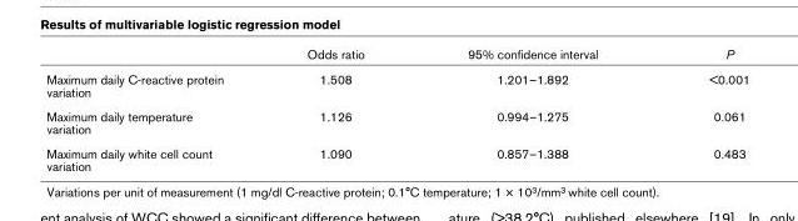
<table><thead><tr><td></td><td>Odds ratio</td><td>95% confidence interval</td><td>P</td></tr></thead><tbody><tr><td>Maximum daily C-reactive protein variation</td><td>1.508</td><td>1.201–1.892</td><td>&lt;0.001</td></tr><tr><td>Maximum daily temperature variation</td><td>1.126</td><td>0.994–1.275</td><td>0.061</td></tr><tr><td>Maximum daily white cell count variation</td><td>1.090</td><td>0.857–1.388</td><td>0.483</td></tr></tbody></table>